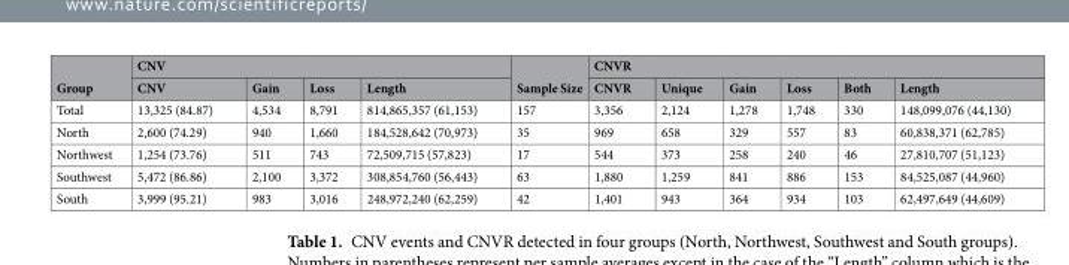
<table><thead><tr><td rowspan="2">Group</td><td colspan="4">CNV</td><td rowspan="2">Sample Size</td><td colspan="6">CNVR</td></tr><tr><td>CNV</td><td>Gain</td><td>Loss</td><td>Length</td><td>CNVR</td><td>Unique</td><td>Gain</td><td>Loss</td><td>Both</td><td>Length</td></tr></thead><tbody><tr><td>Total</td><td>13,325 (84.87)</td><td>4,534</td><td>8,791</td><td>814,865,357 (61,153)</td><td>157</td><td>3,356</td><td>2,124</td><td>1,278</td><td>1,748</td><td>330</td><td>148,099,076 (44,130)</td></tr><tr><td>North</td><td>2,600 (74.29)</td><td>940</td><td>1,660</td><td>184,528,642 (70,973)</td><td>35</td><td>969</td><td>658</td><td>329</td><td>557</td><td>83</td><td>60,838,371 (62,785)</td></tr><tr><td>Northwest</td><td>1,254 (73.76)</td><td>511</td><td>743</td><td>72,509,715 (57,823)</td><td>17</td><td>544</td><td>373</td><td>258</td><td>240</td><td>46</td><td>27,810,707 (51,123)</td></tr><tr><td>Southwest</td><td>5,472 (86.86)</td><td>2,100</td><td>3,372</td><td>308,854,760 (56,443)</td><td>63</td><td>1,880</td><td>1,259</td><td>841</td><td>886</td><td>153</td><td>84,525,087 (44,960)</td></tr><tr><td>South</td><td>3,999 (95.21)</td><td>983</td><td>3,016</td><td>248,972,240 (62,259)</td><td>42</td><td>1,401</td><td>943</td><td>364</td><td>934</td><td>103</td><td>62,497,649 (44,609)</td></tr></tbody></table>